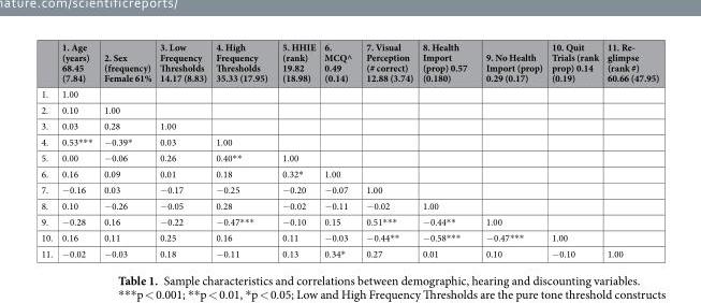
<table><thead><tr><td></td><td>1. Age (years) 68.45 (7.84)</td><td>2. Sex (frequency) Female 61%</td><td>3. Low Frequency Thresholds 14.17 (8.83)</td><td>4. High Frequency Thresholds 35.33 (17.95)</td><td>5. HHIE (rank) 19.82 (18.98)</td><td>6. MCQ^ 0.49 (0.14)</td><td>7. Visual Perception (# correct) 12.88 (3.74)</td><td>8. Health Import (prop) 0.57 (0.180)</td><td>9. No Health Import (prop) 0.29 (0.17)</td><td>10. Quit Trials (rank prop) 0.14 (0.19)</td><td>11. Re- glimpse (rank #) 60.66 (47.95)</td></tr></thead><tbody><tr><td>1.</td><td>1.00</td><td></td><td></td><td></td><td></td><td></td><td></td><td></td><td></td><td></td><td></td></tr><tr><td>2.</td><td>0.10</td><td>1.00</td><td></td><td></td><td></td><td></td><td></td><td></td><td></td><td></td><td></td></tr><tr><td>3.</td><td>0.03</td><td>0.28</td><td>1.00</td><td></td><td></td><td></td><td></td><td></td><td></td><td></td><td></td></tr><tr><td>4.</td><td>0.53***</td><td>−0.39*</td><td>0.03</td><td>1.00</td><td></td><td></td><td></td><td></td><td></td><td></td><td></td></tr><tr><td>5.</td><td>0.00</td><td>−0.06</td><td>0.26</td><td>0.40**</td><td>1.00</td><td></td><td></td><td></td><td></td><td></td><td></td></tr><tr><td>6.</td><td>0.16</td><td>0.09</td><td>0.01</td><td>0.18</td><td>0.32*</td><td>1.00</td><td></td><td></td><td></td><td></td><td></td></tr><tr><td>7.</td><td>−0.16</td><td>0.03</td><td>−0.17</td><td>−0.25</td><td>−0.20</td><td>−0.07</td><td>1.00</td><td></td><td></td><td></td><td></td></tr><tr><td>8.</td><td>0.10</td><td>−0.26</td><td>−0.05</td><td>0.28</td><td>−0.02</td><td>−0.11</td><td>−0.02</td><td>1.00</td><td></td><td></td><td></td></tr><tr><td>9.</td><td>−0.28</td><td>0.16</td><td>−0.22</td><td>−0.47***</td><td>−0.10</td><td>0.15</td><td>0.51***</td><td>−0.44**</td><td>1.00</td><td></td><td></td></tr><tr><td>10.</td><td>0.16</td><td>0.11</td><td>0.25</td><td>0.16</td><td>0.11</td><td>−0.03</td><td>−0.44**</td><td>−0.58***</td><td>−0.47***</td><td>1.00</td><td></td></tr><tr><td>11.</td><td>−0.02</td><td>−0.03</td><td>0.18</td><td>−0.11</td><td>0.13</td><td>0.34*</td><td>0.27</td><td>0.01</td><td>0.10</td><td>−0.10</td><td>1.00</td></tr></tbody></table>